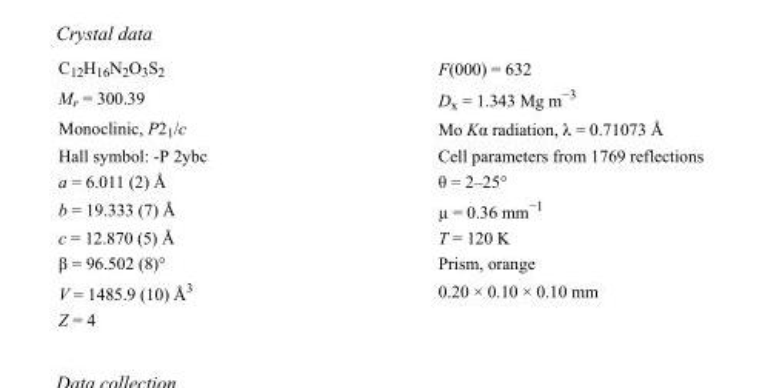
<table><tbody><tr><td>C<sub>12</sub>H<sub>16</sub>N<sub>2</sub>O<sub>3</sub>S<sub>2</sub></td><td>F(000) = 632</td></tr><tr><td>M<sub>r</sub> = 300.39</td><td>D<sub>x</sub> = 1.343 Mg m<sup>−3</sup></td></tr><tr><td>Monoclinic, P2<sub>1</sub>/c</td><td>Mo Kα radiation, λ = 0.71073 Å</td></tr><tr><td>Hall symbol: -P 2ybc</td><td>Cell parameters from 1769 reflections</td></tr><tr><td>a = 6.011 (2) Å</td><td>θ = 2–25°</td></tr><tr><td>b = 19.333 (7) Å</td><td>µ = 0.36 mm<sup>−1</sup></td></tr><tr><td>c = 12.870 (5) Å</td><td>T = 120 K</td></tr><tr><td>β = 96.502 (8)°</td><td>Prism, orange</td></tr><tr><td>V = 1485.9 (10) Å<sup>3</sup></td><td>0.20 × 0.10 × 0.10 mm</td></tr><tr><td>Z = 4</td><td></td></tr></tbody></table>